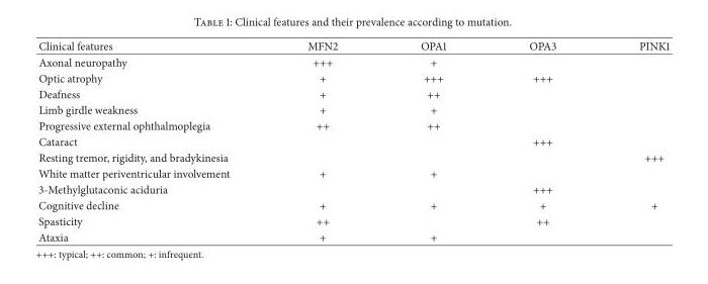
<table><thead><tr><td>Clinical features</td><td>MFN2</td><td>OPA1</td><td>OPA3</td><td>PINK1</td></tr></thead><tbody><tr><td>Axonal neuropathy</td><td>+++</td><td>+</td><td></td><td></td></tr><tr><td>Optic atrophy</td><td>+</td><td>+++</td><td>+++</td><td></td></tr><tr><td>Deafness</td><td>+</td><td>++</td><td></td><td></td></tr><tr><td>Limb girdle weakness</td><td>+</td><td>+</td><td></td><td></td></tr><tr><td>Progressive external ophthalmoplegia</td><td>++</td><td>++</td><td></td><td></td></tr><tr><td>Cataract</td><td></td><td></td><td>+++</td><td></td></tr><tr><td>Resting tremor, rigidity, and bradykinesia</td><td></td><td></td><td></td><td>+++</td></tr><tr><td>White matter periventricular involvement</td><td>+</td><td>+</td><td></td><td></td></tr><tr><td>3-Methylglutaconic aciduria</td><td></td><td></td><td>+++</td><td></td></tr><tr><td>Cognitive decline</td><td>+</td><td>+</td><td>+</td><td>+</td></tr><tr><td>Spasticity</td><td>++</td><td></td><td>++</td><td></td></tr><tr><td>Ataxia</td><td>+</td><td>+</td><td></td><td></td></tr></tbody></table>